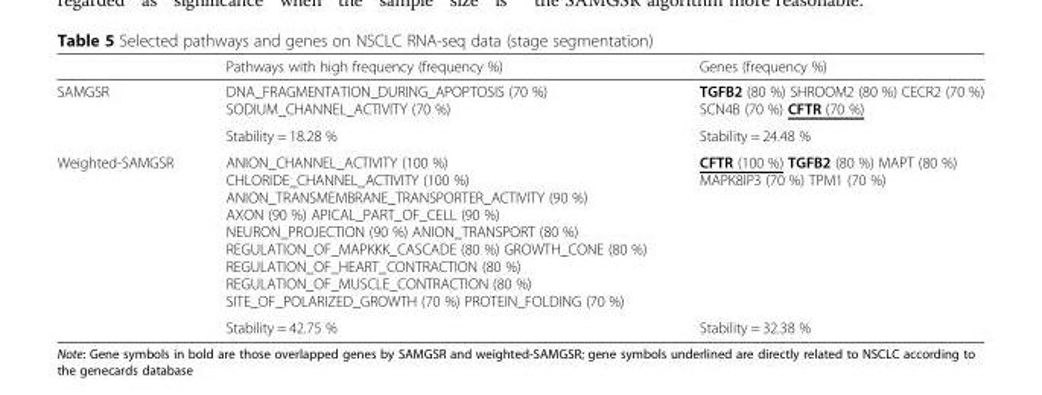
<table><thead><tr><td></td><td>Pathways with high frequency (frequency %)</td><td>Genes (frequency %)</td></tr></thead><tbody><tr><td rowspan="2">SAMGSR</td><td>DNA_FRAGMENTATION_DURING_APOPTOSIS (70 %) SODIUM_CHANNEL_ACTIVITY (70 %)</td><td>TGFB2 (80 %) SHROOM2 (80 %) CECR2 (70 %) SCN4B (70 %) CFTR (70 %)</td></tr><tr><td>Stability = 18.28 %</td><td>Stability = 24.48 %</td></tr><tr><td rowspan="2">Weighted-SAMGSR</td><td>ANION_CHANNEL_ACTIVITY (100 %) CHLORIDE_CHANNEL_ACTIVITY (100 %) ANION_TRANSMEMBRANE_TRANSPORTER_ACTIVITY (90 %) AXON (90 %) APICAL_PART_OF_CELL (90 %) NEURON_PROJECTION (90 %) ANION_TRANSPORT (80 %) REGULATION_OF_MAPKKK_CASCADE (80 %) GROWTH_CONE (80 %) REGULATION_OF_HEART_CONTRACTION (80 %) REGULATION_OF_MUSCLE_CONTRACTION (80 %) SITE_OF_POLARIZED_GROWTH (70 %) PROTEIN_FOLDING (70 %)</td><td>CFTR (100 %) TGFB2 (80 %) MAPT (80 %) MAPK8IP3 (70 %) TPM1 (70 %)</td></tr><tr><td>Stability = 42.75 %</td><td>Stability = 32.38 %</td></tr></tbody></table>